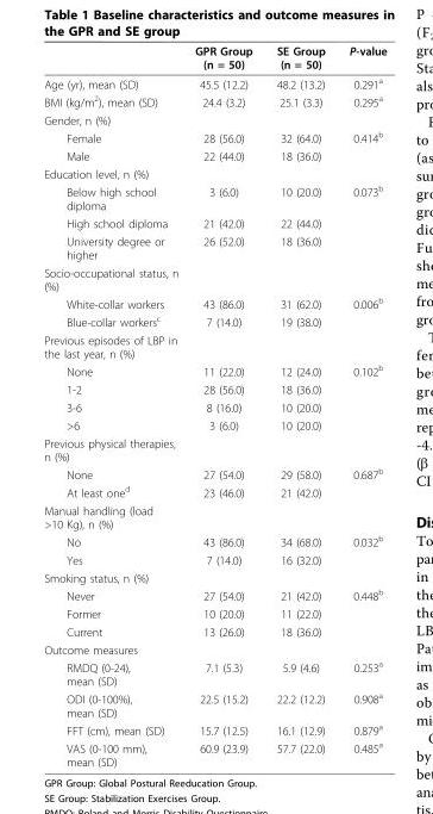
<table><thead><tr><td></td><td>GPR Group (n = 50)</td><td>SE Group (n = 50)</td><td>P-value</td></tr></thead><tbody><tr><td>Age (yr), mean (SD)</td><td>45.5 (12.2)</td><td>48.2 (13.2)</td><td>0.291<sup>a</sup></td></tr><tr><td>BMI (kg/m<sup>2</sup>), mean (SD)</td><td>24.4 (3.2)</td><td>25.1 (3.3)</td><td>0.295<sup>a</sup></td></tr><tr><td colspan="4">Gender, n (%)</td></tr><tr><td>Female</td><td>28 (56.0)</td><td>32 (64.0)</td><td>0.414<sup>b</sup></td></tr><tr><td>Male</td><td>22 (44.0)</td><td>18 (36.0)</td><td></td></tr><tr><td colspan="4">Education level, n (%)</td></tr><tr><td>Below high school diploma</td><td>3 (6.0)</td><td>10 (20.0)</td><td>0.073<sup>b</sup></td></tr><tr><td>High school diploma</td><td>21 (42.0)</td><td>22 (44.0)</td><td></td></tr><tr><td>University degree or higher</td><td>26 (52.0)</td><td>18 (36.0)</td><td></td></tr><tr><td colspan="4">Socio-occupational status, n (%)</td></tr><tr><td>White-collar workers</td><td>43 (86.0)</td><td>31 (62.0)</td><td>0.006<sup>b</sup></td></tr><tr><td>Blue-collar workers<sup>c</sup></td><td>7 (14.0)</td><td>19 (38.0)</td><td></td></tr><tr><td colspan="4">Previous episodes of LBP in the last year, n (%)</td></tr><tr><td>None</td><td>11 (22.0)</td><td>12 (24.0)</td><td>0.102<sup>b</sup></td></tr><tr><td>1-2</td><td>28 (56.0)</td><td>18 (36.0)</td><td></td></tr><tr><td>3-6</td><td>8 (16.0)</td><td>10 (20.0)</td><td></td></tr><tr><td>&gt;6</td><td>3 (6.0)</td><td>10 (20.0)</td><td></td></tr><tr><td colspan="4">Previous physical therapies, n (%)</td></tr><tr><td>None</td><td>27 (54.0)</td><td>29 (58.0)</td><td>0.687<sup>b</sup></td></tr><tr><td>At least one<sup>d</sup></td><td>23 (46.0)</td><td>21 (42.0)</td><td></td></tr><tr><td colspan="4">Manual handling (load &gt;10 Kg), n (%)</td></tr><tr><td>No</td><td>43 (86.0)</td><td>34 (68.0)</td><td>0.032<sup>b</sup></td></tr><tr><td>Yes</td><td>7 (14.0)</td><td>16 (32.0)</td><td></td></tr><tr><td colspan="4">Smoking status, n (%)</td></tr><tr><td>Never</td><td>27 (54.0)</td><td>21 (42.0)</td><td>0.448<sup>b</sup></td></tr><tr><td>Former</td><td>10 (20.0)</td><td>11 (22.0)</td><td></td></tr><tr><td>Current</td><td>13 (26.0)</td><td>18 (36.0)</td><td></td></tr><tr><td colspan="4">Outcome measures</td></tr><tr><td>RMDQ (0-24), mean (SD)</td><td>7.1 (5.3)</td><td>5.9 (4.6)</td><td>0.253<sup>a</sup></td></tr><tr><td>ODI (0-100%), mean (SD)</td><td>22.5 (15.2)</td><td>22.2 (12.2)</td><td>0.908<sup>a</sup></td></tr><tr><td>FFT (cm), mean (SD)</td><td>15.7 (12.5)</td><td>16.1 (12.9)</td><td>0.879<sup>a</sup></td></tr><tr><td>VAS (0-100 mm), mean (SD)</td><td>60.9 (23.9)</td><td>57.7 (22.0)</td><td>0.485<sup>a</sup></td></tr></tbody></table>